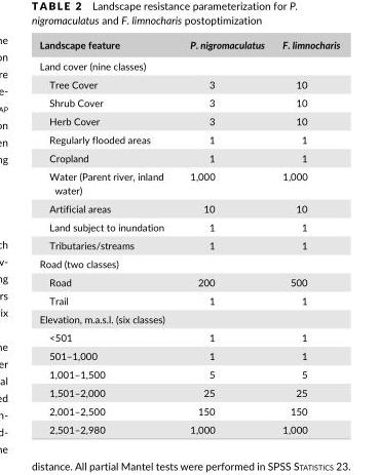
<table><thead><tr><td>Landscape feature</td><td>P. nigromaculatus</td><td>F. limnocharis</td></tr></thead><tbody><tr><td colspan="3">Land cover (nine classes)</td></tr><tr><td>Tree Cover</td><td>3</td><td>10</td></tr><tr><td>Shrub Cover</td><td>3</td><td>10</td></tr><tr><td>Herb Cover</td><td>3</td><td>10</td></tr><tr><td>Regularly flooded areas</td><td>1</td><td>1</td></tr><tr><td>Cropland</td><td>1</td><td>1</td></tr><tr><td>Water (Parent river, inland water)</td><td>1,000</td><td>1,000</td></tr><tr><td>Artificial areas</td><td>10</td><td>10</td></tr><tr><td>Land subject to inundation</td><td>1</td><td>1</td></tr><tr><td>Tributaries/streams</td><td>1</td><td>1</td></tr><tr><td colspan="3">Road (two classes)</td></tr><tr><td>Road</td><td>200</td><td>500</td></tr><tr><td>Trail</td><td>1</td><td>1</td></tr><tr><td colspan="3">Elevation, m.a.s.l. (six classes)</td></tr><tr><td>&lt;501</td><td>1</td><td>1</td></tr><tr><td>501–1,000</td><td>1</td><td>1</td></tr><tr><td>1,001–1,500</td><td>5</td><td>5</td></tr><tr><td>1,501–2,000</td><td>25</td><td>25</td></tr><tr><td>2,001–2,500</td><td>150</td><td>150</td></tr><tr><td>2,501–2,980</td><td>1,000</td><td>1,000</td></tr></tbody></table>